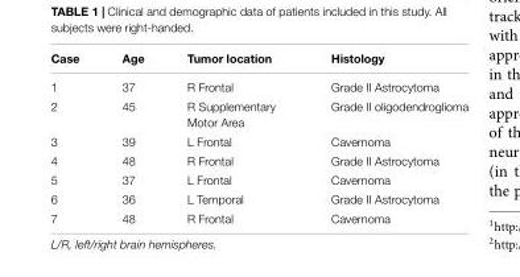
<table><thead><tr><td>Case</td><td>Age</td><td>Tumor location</td><td>Histology</td></tr></thead><tbody><tr><td>1</td><td>37</td><td>R Frontal</td><td>Grade II Astrocytoma</td></tr><tr><td>2</td><td>45</td><td>R Supplementary Motor Area</td><td>Grade II oligodendroglioma</td></tr><tr><td>3</td><td>39</td><td>L Frontal</td><td>Cavernoma</td></tr><tr><td>4</td><td>48</td><td>R Frontal</td><td>Grade II Astrocytoma</td></tr><tr><td>5</td><td>37</td><td>L Frontal</td><td>Cavernoma</td></tr><tr><td>6</td><td>36</td><td>L Temporal</td><td>Grade II Astrocytoma</td></tr><tr><td>7</td><td>48</td><td>R Frontal</td><td>Cavernoma</td></tr></tbody></table>